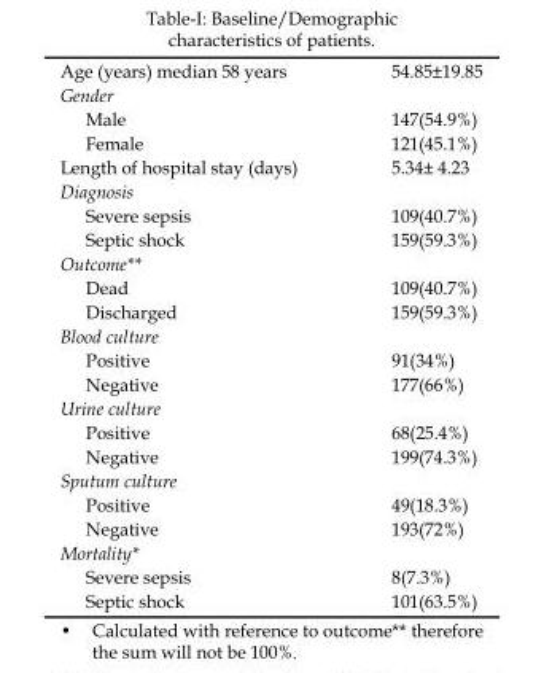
<table><tbody><tr><td>Age (years) median 58 years</td><td>54.85±19.85</td></tr><tr><td colspan="2">Gender</td></tr><tr><td>Male</td><td>147(54.9%)</td></tr><tr><td>Female</td><td>121(45.1%)</td></tr><tr><td>Length of hospital stay (days)</td><td>5.34± 4.23</td></tr><tr><td colspan="2">Diagnosis</td></tr><tr><td>Severe sepsis</td><td>109(40.7%)</td></tr><tr><td>Septic shock</td><td>159(59.3%)</td></tr><tr><td colspan="2">Outcome**</td></tr><tr><td>Dead</td><td>109(40.7%)</td></tr><tr><td>Discharged</td><td>159(59.3%)</td></tr><tr><td colspan="2">Blood culture</td></tr><tr><td>Positive</td><td>91(34%)</td></tr><tr><td>Negative</td><td>177(66%)</td></tr><tr><td colspan="2">Urine culture</td></tr><tr><td>Positive</td><td>68(25.4%)</td></tr><tr><td>Negative</td><td>199(74.3%)</td></tr><tr><td colspan="2">Sputum culture</td></tr><tr><td>Positive</td><td>49(18.3%)</td></tr><tr><td>Negative</td><td>193(72%)</td></tr><tr><td colspan="2">Mortality*</td></tr><tr><td>Severe sepsis</td><td>8(7.3%)</td></tr><tr><td>Septic shock</td><td>101(63.5%)</td></tr></tbody></table>